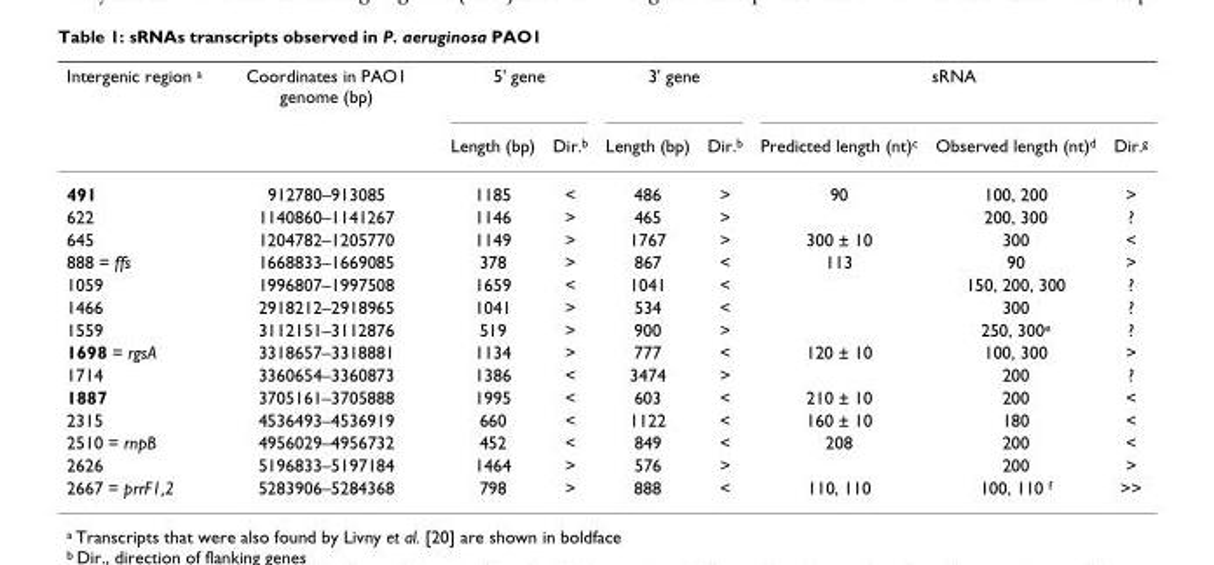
<table><thead><tr><td rowspan="2">Intergenic region <sup>a</sup></td><td rowspan="2">Coordinates in PAO1 genome (bp)</td><td colspan="2">5&#x27; gene</td><td colspan="2">3&#x27; gene</td><td colspan="3">sRNA</td></tr><tr><td>Length (bp)</td><td>Dir.<sup>b</sup></td><td>Length (bp)</td><td>Dir.<sup>b</sup></td><td>Predicted length (nt)<sup>c</sup></td><td>Observed length (nt)<sup>d</sup></td><td>Dir.<sup>g</sup></td></tr></thead><tbody><tr><td>491</td><td>912780–913085</td><td>1185</td><td>&lt;</td><td>486</td><td>&gt;</td><td>90</td><td>100, 200</td><td>&gt;</td></tr><tr><td>622</td><td>1140860–1141267</td><td>1146</td><td>&gt;</td><td>465</td><td>&gt;</td><td></td><td>200, 300</td><td>?</td></tr><tr><td>645</td><td>1204782–1205770</td><td>1149</td><td>&gt;</td><td>1767</td><td>&gt;</td><td>300 ± 10</td><td>300</td><td>&lt;</td></tr><tr><td>888 = ffs</td><td>1668833–1669085</td><td>378</td><td>&gt;</td><td>867</td><td>&lt;</td><td>113</td><td>90</td><td>&gt;</td></tr><tr><td>1059</td><td>1996807–1997508</td><td>1659</td><td>&lt;</td><td>1041</td><td>&lt;</td><td></td><td>150, 200, 300</td><td>?</td></tr><tr><td>1466</td><td>2918212–2918965</td><td>1041</td><td>&gt;</td><td>534</td><td>&lt;</td><td></td><td>300</td><td>?</td></tr><tr><td>1559</td><td>3112151–3112876</td><td>519</td><td>&gt;</td><td>900</td><td>&gt;</td><td></td><td>250, 300<sup>e</sup></td><td>?</td></tr><tr><td>1698 = rgsA</td><td>3318657–3318881</td><td>1134</td><td>&gt;</td><td>777</td><td>&lt;</td><td>120 ± 10</td><td>100, 300</td><td>&gt;</td></tr><tr><td>1714</td><td>3360654–3360873</td><td>1386</td><td>&lt;</td><td>3474</td><td>&gt;</td><td></td><td>200</td><td>?</td></tr><tr><td>1887</td><td>3705161–3705888</td><td>1995</td><td>&lt;</td><td>603</td><td>&lt;</td><td>210 ± 10</td><td>200</td><td>&lt;</td></tr><tr><td>2315</td><td>4536493–4536919</td><td>660</td><td>&lt;</td><td>1122</td><td>&lt;</td><td>160 ± 10</td><td>180</td><td>&lt;</td></tr><tr><td>2510 = rnpB</td><td>4956029–4956732</td><td>452</td><td>&lt;</td><td>849</td><td>&lt;</td><td>208</td><td>200</td><td>&lt;</td></tr><tr><td>2626</td><td>5196833–5197184</td><td>1464</td><td>&gt;</td><td>576</td><td>&gt;</td><td></td><td>200</td><td>&gt;</td></tr><tr><td>2667 = prrF1,2</td><td>5283906–5284368</td><td>798</td><td>&gt;</td><td>888</td><td>&lt;</td><td>110, 110</td><td>100, 110 <sup>f</sup></td><td>&gt;&gt;</td></tr></tbody></table>